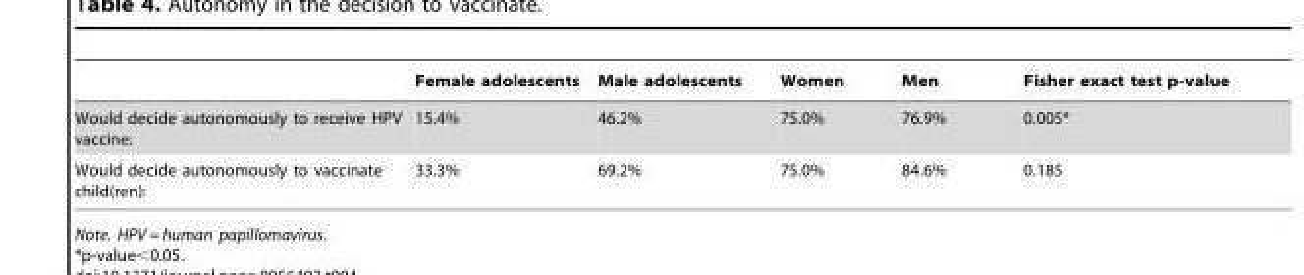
<table><thead><tr><td></td><td>Female adolescents</td><td>Male adolescents</td><td>Women</td><td>Men</td><td>Fisher exact test p-value</td></tr></thead><tbody><tr><td>Would decide autonomously to receive HPV vaccine:</td><td>15.4%</td><td>46.2%</td><td>75.0%</td><td>76.9%</td><td>0.005*</td></tr><tr><td>Would decide autonomously to vaccinate child(ren):</td><td>33.3%</td><td>69.2%</td><td>75.0%</td><td>84.6%</td><td>0.185</td></tr></tbody></table>